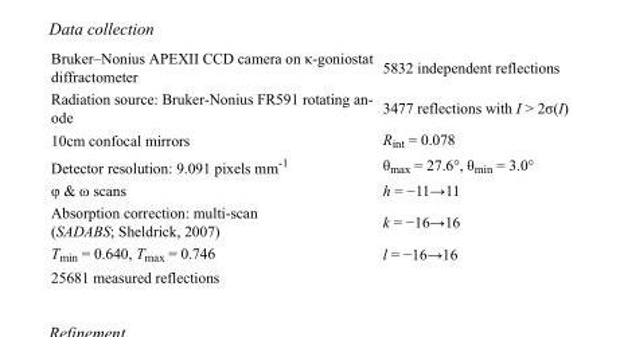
<table><tbody><tr><td>Bruker–Nonius APEXII CCD camera on κ-goniostat diffractometer</td><td>5832 independent reflections</td></tr><tr><td>Radiation source: Bruker-Nonius FR591 rotating an- ode</td><td>3477 reflections with I &gt; 2σ(I)</td></tr><tr><td>10cm confocal mirrors</td><td>R<sub>int</sub> = 0.078</td></tr><tr><td>Detector resolution: 9.091 pixels mm<sup>-1</sup></td><td>θ<sub>max</sub> = 27.6°, θ<sub>min</sub> = 3.0°</td></tr><tr><td>φ &amp; ω scans</td><td>h = −11→11</td></tr><tr><td>Absorption correction: multi-scan (SADABS; Sheldrick, 2007)</td><td>k = −16→16</td></tr><tr><td>T<sub>min</sub> = 0.640, T<sub>max</sub> = 0.746</td><td>l = −16→16</td></tr><tr><td>25681 measured reflections</td><td></td></tr></tbody></table>